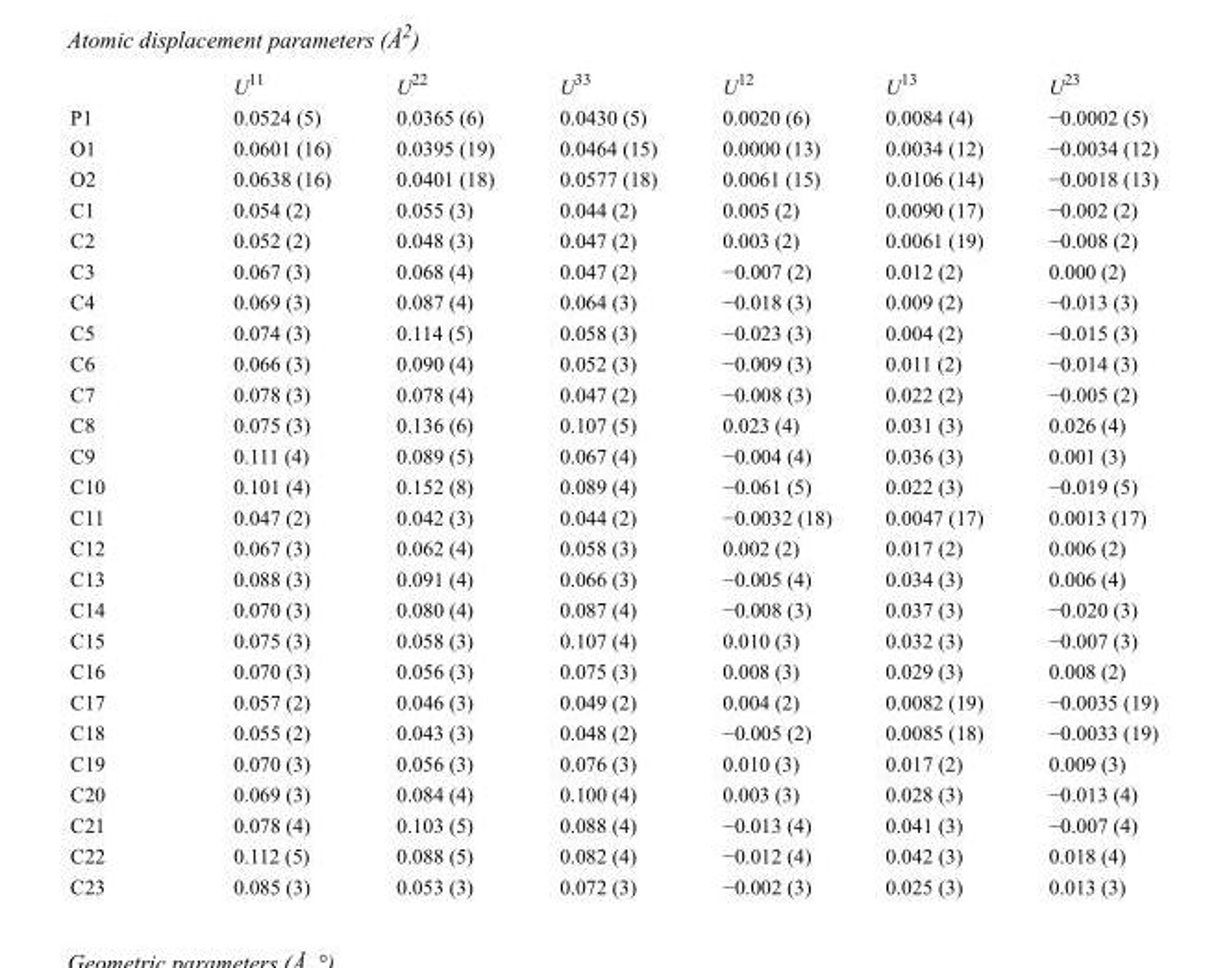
<table><thead><tr><td></td><td>U<sup>11</sup></td><td>U<sup>22</sup></td><td>U<sup>33</sup></td><td>U<sup>12</sup></td><td>U<sup>13</sup></td><td>U<sup>23</sup></td></tr></thead><tbody><tr><td>P1</td><td>0.0524 (5)</td><td>0.0365 (6)</td><td>0.0430 (5)</td><td>0.0020 (6)</td><td>0.0084 (4)</td><td>−0.0002 (5)</td></tr><tr><td>O1</td><td>0.0601 (16)</td><td>0.0395 (19)</td><td>0.0464 (15)</td><td>0.0000 (13)</td><td>0.0034 (12)</td><td>−0.0034 (12)</td></tr><tr><td>O2</td><td>0.0638 (16)</td><td>0.0401 (18)</td><td>0.0577 (18)</td><td>0.0061 (15)</td><td>0.0106 (14)</td><td>−0.0018 (13)</td></tr><tr><td>C1</td><td>0.054 (2)</td><td>0.055 (3)</td><td>0.044 (2)</td><td>0.005 (2)</td><td>0.0090 (17)</td><td>−0.002 (2)</td></tr><tr><td>C2</td><td>0.052 (2)</td><td>0.048 (3)</td><td>0.047 (2)</td><td>0.003 (2)</td><td>0.0061 (19)</td><td>−0.008 (2)</td></tr><tr><td>C3</td><td>0.067 (3)</td><td>0.068 (4)</td><td>0.047 (2)</td><td>−0.007 (2)</td><td>0.012 (2)</td><td>0.000 (2)</td></tr><tr><td>C4</td><td>0.069 (3)</td><td>0.087 (4)</td><td>0.064 (3)</td><td>−0.018 (3)</td><td>0.009 (2)</td><td>−0.013 (3)</td></tr><tr><td>C5</td><td>0.074 (3)</td><td>0.114 (5)</td><td>0.058 (3)</td><td>−0.023 (3)</td><td>0.004 (2)</td><td>−0.015 (3)</td></tr><tr><td>C6</td><td>0.066 (3)</td><td>0.090 (4)</td><td>0.052 (3)</td><td>−0.009 (3)</td><td>0.011 (2)</td><td>−0.014 (3)</td></tr><tr><td>C7</td><td>0.078 (3)</td><td>0.078 (4)</td><td>0.047 (2)</td><td>−0.008 (3)</td><td>0.022 (2)</td><td>−0.005 (2)</td></tr><tr><td>C8</td><td>0.075 (3)</td><td>0.136 (6)</td><td>0.107 (5)</td><td>0.023 (4)</td><td>0.031 (3)</td><td>0.026 (4)</td></tr><tr><td>C9</td><td>0.111 (4)</td><td>0.089 (5)</td><td>0.067 (4)</td><td>−0.004 (4)</td><td>0.036 (3)</td><td>0.001 (3)</td></tr><tr><td>C10</td><td>0.101 (4)</td><td>0.152 (8)</td><td>0.089 (4)</td><td>−0.061 (5)</td><td>0.022 (3)</td><td>−0.019 (5)</td></tr><tr><td>C11</td><td>0.047 (2)</td><td>0.042 (3)</td><td>0.044 (2)</td><td>−0.0032 (18)</td><td>0.0047 (17)</td><td>0.0013 (17)</td></tr><tr><td>C12</td><td>0.067 (3)</td><td>0.062 (4)</td><td>0.058 (3)</td><td>0.002 (2)</td><td>0.017 (2)</td><td>0.006 (2)</td></tr><tr><td>C13</td><td>0.088 (3)</td><td>0.091 (4)</td><td>0.066 (3)</td><td>−0.005 (4)</td><td>0.034 (3)</td><td>0.006 (4)</td></tr><tr><td>C14</td><td>0.070 (3)</td><td>0.080 (4)</td><td>0.087 (4)</td><td>−0.008 (3)</td><td>0.037 (3)</td><td>−0.020 (3)</td></tr><tr><td>C15</td><td>0.075 (3)</td><td>0.058 (3)</td><td>0.107 (4)</td><td>0.010 (3)</td><td>0.032 (3)</td><td>−0.007 (3)</td></tr><tr><td>C16</td><td>0.070 (3)</td><td>0.056 (3)</td><td>0.075 (3)</td><td>0.008 (3)</td><td>0.029 (3)</td><td>0.008 (2)</td></tr><tr><td>C17</td><td>0.057 (2)</td><td>0.046 (3)</td><td>0.049 (2)</td><td>0.004 (2)</td><td>0.0082 (19)</td><td>−0.0035 (19)</td></tr><tr><td>C18</td><td>0.055 (2)</td><td>0.043 (3)</td><td>0.048 (2)</td><td>−0.005 (2)</td><td>0.0085 (18)</td><td>−0.0033 (19)</td></tr><tr><td>C19</td><td>0.070 (3)</td><td>0.056 (3)</td><td>0.076 (3)</td><td>0.010 (3)</td><td>0.017 (2)</td><td>0.009 (3)</td></tr><tr><td>C20</td><td>0.069 (3)</td><td>0.084 (4)</td><td>0.100 (4)</td><td>0.003 (3)</td><td>0.028 (3)</td><td>−0.013 (4)</td></tr><tr><td>C21</td><td>0.078 (4)</td><td>0.103 (5)</td><td>0.088 (4)</td><td>−0.013 (4)</td><td>0.041 (3)</td><td>−0.007 (4)</td></tr><tr><td>C22</td><td>0.112 (5)</td><td>0.088 (5)</td><td>0.082 (4)</td><td>−0.012 (4)</td><td>0.042 (3)</td><td>0.018 (4)</td></tr><tr><td>C23</td><td>0.085 (3)</td><td>0.053 (3)</td><td>0.072 (3)</td><td>−0.002 (3)</td><td>0.025 (3)</td><td>0.013 (3)</td></tr></tbody></table>